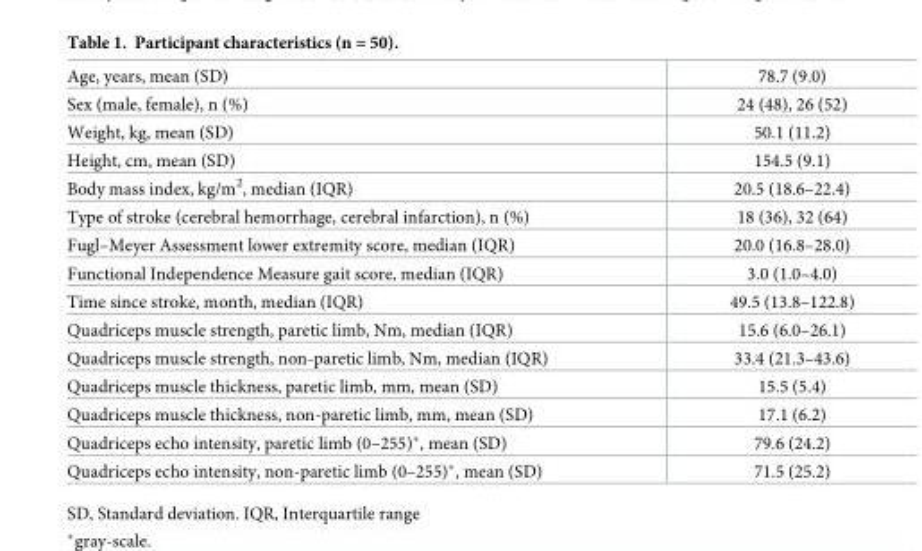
<table><tbody><tr><td>Age, years, mean (SD)</td><td>78.7 (9.0)</td></tr><tr><td>Sex (male, female), n (%)</td><td>24 (48), 26 (52)</td></tr><tr><td>Weight, kg, mean (SD)</td><td>50.1 (11.2)</td></tr><tr><td>Height, cm, mean (SD)</td><td>154.5 (9.1)</td></tr><tr><td>Body mass index, kg/m<sup>2</sup>, median (IQR)</td><td>20.5 (18.6–22.4)</td></tr><tr><td>Type of stroke (cerebral hemorrhage, cerebral infarction), n (%)</td><td>18 (36), 32 (64)</td></tr><tr><td>Fugl–Meyer Assessment lower extremity score, median (IQR)</td><td>20.0 (16.8–28.0)</td></tr><tr><td>Functional Independence Measure gait score, median (IQR)</td><td>3.0 (1.0–4.0)</td></tr><tr><td>Time since stroke, month, median (IQR)</td><td>49.5 (13.8–122.8)</td></tr><tr><td>Quadriceps muscle strength, paretic limb, Nm, median (IQR)</td><td>15.6 (6.0–26.1)</td></tr><tr><td>Quadriceps muscle strength, non-paretic limb, Nm, median (IQR)</td><td>33.4 (21.3–43.6)</td></tr><tr><td>Quadriceps muscle thickness, paretic limb, mm, mean (SD)</td><td>15.5 (5.4)</td></tr><tr><td>Quadriceps muscle thickness, non-paretic limb, mm, mean (SD)</td><td>17.1 (6.2)</td></tr><tr><td>Quadriceps echo intensity, paretic limb (0–255)*, mean (SD)</td><td>79.6 (24.2)</td></tr><tr><td>Quadriceps echo intensity, non-paretic limb (0–255)*, mean (SD)</td><td>71.5 (25.2)</td></tr></tbody></table>